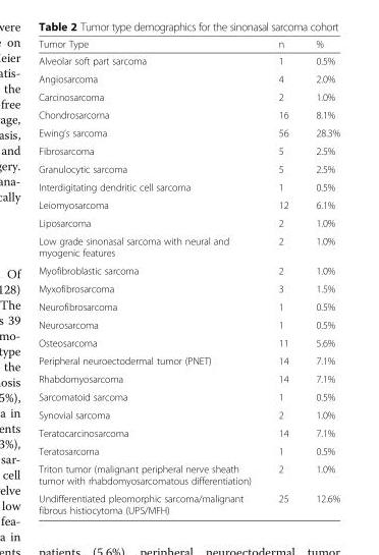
<table><thead><tr><td>Tumor Type</td><td>n</td><td>%</td></tr></thead><tbody><tr><td>Alveolar soft part sarcoma</td><td>1</td><td>0.5%</td></tr><tr><td>Angiosarcoma</td><td>4</td><td>2.0%</td></tr><tr><td>Carcinosarcoma</td><td>2</td><td>1.0%</td></tr><tr><td>Chondrosarcoma</td><td>16</td><td>8.1%</td></tr><tr><td>Ewing’s sarcoma</td><td>56</td><td>28.3%</td></tr><tr><td>Fibrosarcoma</td><td>5</td><td>2.5%</td></tr><tr><td>Granulocytic sarcoma</td><td>5</td><td>2.5%</td></tr><tr><td>Interdigitating dendritic cell sarcoma</td><td>1</td><td>0.5%</td></tr><tr><td>Leiomyosarcoma</td><td>12</td><td>6.1%</td></tr><tr><td>Liposarcoma</td><td>2</td><td>1.0%</td></tr><tr><td>Low grade sinonasal sarcoma with neural and myogenic features</td><td>2</td><td>1.0%</td></tr><tr><td>Myofibroblastic sarcoma</td><td>2</td><td>1.0%</td></tr><tr><td>Myxofibrosarcoma</td><td>3</td><td>1.5%</td></tr><tr><td>Neurofibrosarcoma</td><td>1</td><td>0.5%</td></tr><tr><td>Neurosarcoma</td><td>1</td><td>0.5%</td></tr><tr><td>Osteosarcoma</td><td>11</td><td>5.6%</td></tr><tr><td>Peripheral neuroectodermal tumor (PNET)</td><td>14</td><td>7.1%</td></tr><tr><td>Rhabdomyosarcoma</td><td>14</td><td>7.1%</td></tr><tr><td>Sarcomatoid sarcoma</td><td>1</td><td>0.5%</td></tr><tr><td>Synovial sarcoma</td><td>2</td><td>1.0%</td></tr><tr><td>Teratocarcinosarcoma</td><td>14</td><td>7.1%</td></tr><tr><td>Teratosarcoma</td><td>1</td><td>0.5%</td></tr><tr><td>Triton tumor (malignant peripheral nerve sheath tumor with rhabdomyosarcomatous differentiation)</td><td>2</td><td>1.0%</td></tr><tr><td>Undifferentiated pleomorphic sarcoma/malignant fibrous histiocytoma (UPS/MFH)</td><td>25</td><td>12.6%</td></tr></tbody></table>